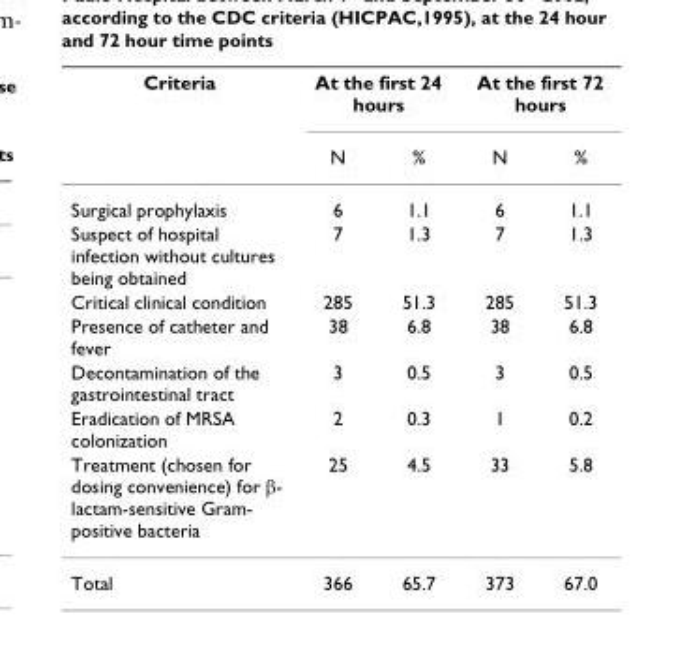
<table><thead><tr><td rowspan="2">Criteria</td><td colspan="2">At the first 24 hours</td><td colspan="2">At the first 72 hours</td></tr><tr><td>N</td><td>%</td><td>N</td><td>%</td></tr></thead><tbody><tr><td>Surgical prophylaxis</td><td>6</td><td>1.1</td><td>6</td><td>1.1</td></tr><tr><td>Suspect of hospital infection without cultures being obtained</td><td>7</td><td>1.3</td><td>7</td><td>1.3</td></tr><tr><td>Critical clinical condition</td><td>285</td><td>51.3</td><td>285</td><td>51.3</td></tr><tr><td>Presence of catheter and fever</td><td>38</td><td>6.8</td><td>38</td><td>6.8</td></tr><tr><td>Decontamination of the gastrointestinal tract</td><td>3</td><td>0.5</td><td>3</td><td>0.5</td></tr><tr><td>Eradication of MRSA colonization</td><td>2</td><td>0.3</td><td>1</td><td>0.2</td></tr><tr><td>Treatment (chosen for dosing convenience) for β- lactam-sensitive Gram- positive bacteria</td><td>25</td><td>4.5</td><td>33</td><td>5.8</td></tr><tr><td>Total</td><td>366</td><td>65.7</td><td>373</td><td>67.0</td></tr></tbody></table>